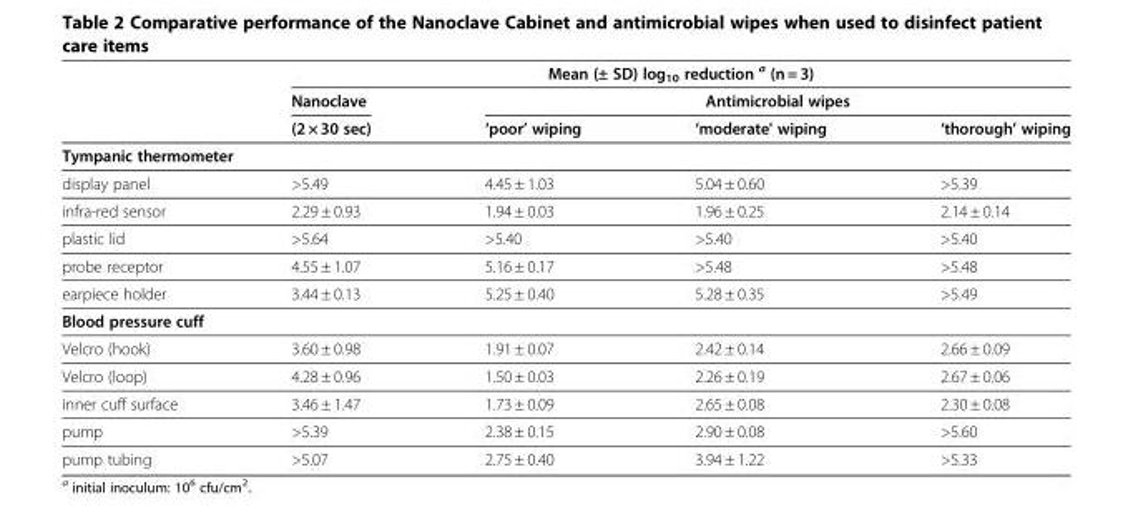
<table><thead><tr><td rowspan="3"></td><td colspan="4">Mean (± SD) log<sub>10</sub> reduction <sup>a</sup> (n = 3)</td></tr><tr><td rowspan="2">Nanoclave (2 × 30 sec)</td><td colspan="3">Antimicrobial wipes</td></tr><tr><td>‘poor’ wiping</td><td>‘moderate&#x27; wiping</td><td>‘thorough’ wiping</td></tr></thead><tbody><tr><td colspan="5">Tympanic thermometer</td></tr><tr><td>display panel</td><td>&gt;5.49</td><td>4.45 ± 1.03</td><td>5.04 ± 0.60</td><td>&gt;5.39</td></tr><tr><td>infra-red sensor</td><td>2.29 ± 0.93</td><td>1.94 ± 0.03</td><td>1.96 ± 0.25</td><td>2.14 ± 0.14</td></tr><tr><td>plastic lid</td><td>&gt;5.64</td><td>&gt;5.40</td><td>&gt;5.40</td><td>&gt;5.40</td></tr><tr><td>probe receptor</td><td>4.55 ± 1.07</td><td>5.16 ± 0.17</td><td>&gt;5.48</td><td>&gt;5.48</td></tr><tr><td>earpiece holder</td><td>3.44 ± 0.13</td><td>5.25 ± 0.40</td><td>5.28 ± 0.35</td><td>&gt;5.49</td></tr><tr><td colspan="5">Blood pressure cuff</td></tr><tr><td>Velcro (hook)</td><td>3.60 ± 0.98</td><td>1.91 ± 0.07</td><td>2.42 ± 0.14</td><td>2.66 ± 0.09</td></tr><tr><td>Velcro (loop)</td><td>4.28 ± 0.96</td><td>1.50 ± 0.03</td><td>2.26 ± 0.19</td><td>2.67 ± 0.06</td></tr><tr><td>inner cuff surface</td><td>3.46 ± 1.47</td><td>1.73 ± 0.09</td><td>2.65 ± 0.08</td><td>2.30 ± 0.08</td></tr><tr><td>pump</td><td>&gt;5.39</td><td>2.38 ± 0.15</td><td>2.90 ± 0.08</td><td>&gt;5.60</td></tr><tr><td>pump tubing</td><td>&gt;5.07</td><td>2.75 ± 0.40</td><td>3.94 ± 1.22</td><td>&gt;5.33</td></tr></tbody></table>